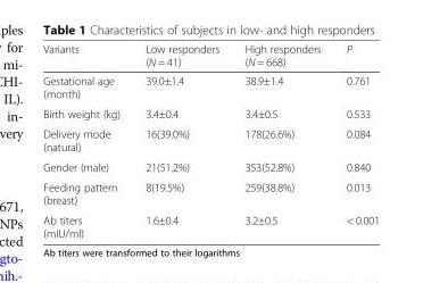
<table><thead><tr><td>Variants</td><td>Low responders (N = 41)</td><td>High responders (N = 668)</td><td>P</td></tr></thead><tbody><tr><td>Gestational age (month)</td><td>39.0±1.4</td><td>38.9±1.4</td><td>0.761</td></tr><tr><td>Birth weight (kg)</td><td>3.4±0.4</td><td>3.4±0.5</td><td>0.533</td></tr><tr><td>Delivery mode (natural)</td><td>16(39.0%)</td><td>178(26.6%)</td><td>0.084</td></tr><tr><td>Gender (male)</td><td>21(51.2%)</td><td>353(52.8%)</td><td>0.840</td></tr><tr><td>Feeding pattern (breast)</td><td>8(19.5%)</td><td>259(38.8%)</td><td>0.013</td></tr><tr><td>Ab titers (mIU/ml)</td><td>1.6±0.4</td><td>3.2±0.5</td><td>&lt; 0.001</td></tr></tbody></table>